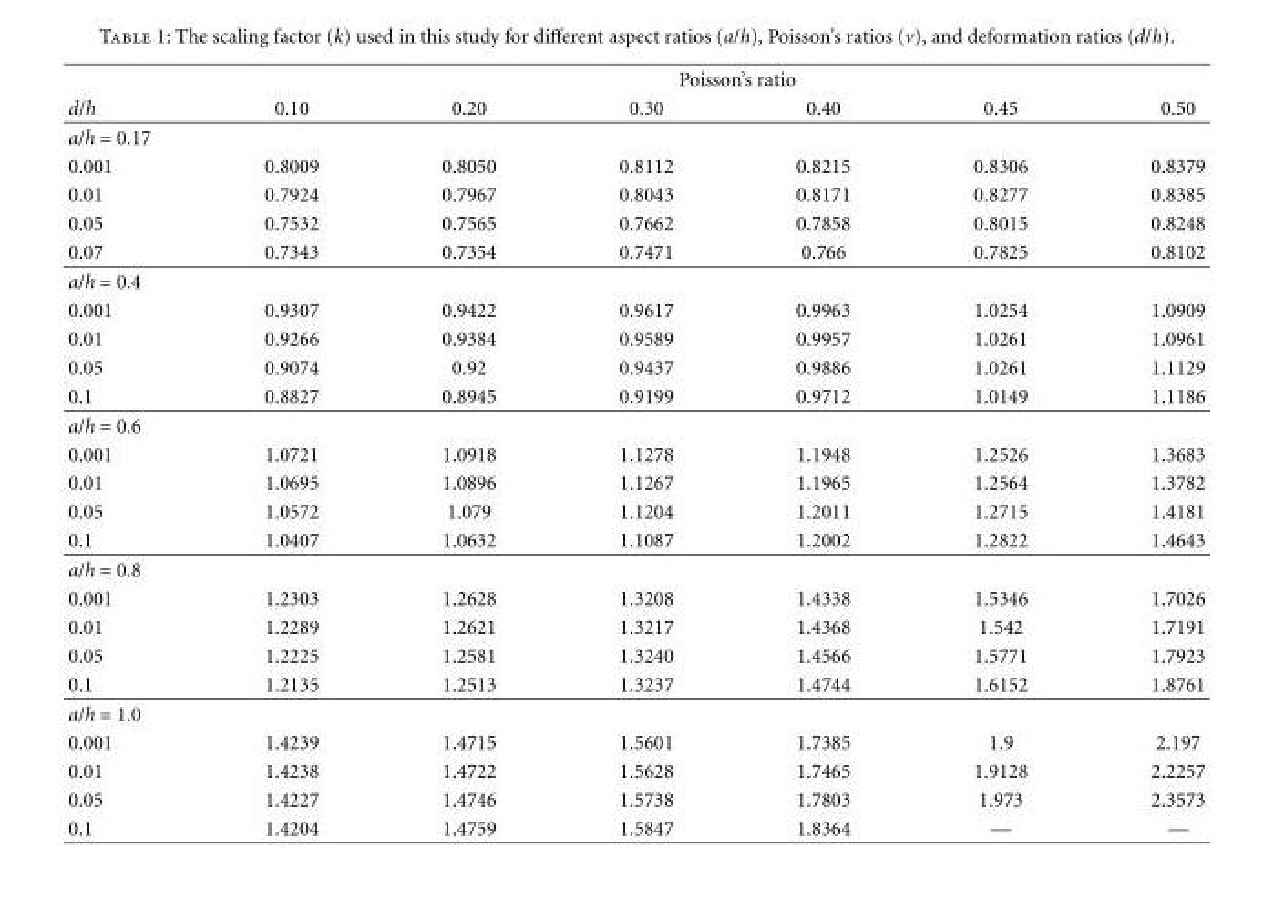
<table><thead><tr><td rowspan="2">d/h</td><td colspan="6">Poisson’s ratio</td></tr><tr><td>0.10</td><td>0.20</td><td>0.30</td><td>0.40</td><td>0.45</td><td>0.50</td></tr></thead><tbody><tr><td colspan="7">a/h = 0.17</td></tr><tr><td>0.001</td><td>0.8009</td><td>0.8050</td><td>0.8112</td><td>0.8215</td><td>0.8306</td><td>0.8379</td></tr><tr><td>0.01</td><td>0.7924</td><td>0.7967</td><td>0.8043</td><td>0.8171</td><td>0.8277</td><td>0.8385</td></tr><tr><td>0.05</td><td>0.7532</td><td>0.7565</td><td>0.7662</td><td>0.7858</td><td>0.8015</td><td>0.8248</td></tr><tr><td>0.07</td><td>0.7343</td><td>0.7354</td><td>0.7471</td><td>0.766</td><td>0.7825</td><td>0.8102</td></tr><tr><td colspan="7">a/h = 0.4</td></tr><tr><td>0.001</td><td>0.9307</td><td>0.9422</td><td>0.9617</td><td>0.9963</td><td>1.0254</td><td>1.0909</td></tr><tr><td>0.01</td><td>0.9266</td><td>0.9384</td><td>0.9589</td><td>0.9957</td><td>1.0261</td><td>1.0961</td></tr><tr><td>0.05</td><td>0.9074</td><td>0.92</td><td>0.9437</td><td>0.9886</td><td>1.0261</td><td>1.1129</td></tr><tr><td>0.1</td><td>0.8827</td><td>0.8945</td><td>0.9199</td><td>0.9712</td><td>1.0149</td><td>1.1186</td></tr><tr><td colspan="7">a/h = 0.6</td></tr><tr><td>0.001</td><td>1.0721</td><td>1.0918</td><td>1.1278</td><td>1.1948</td><td>1.2526</td><td>1.3683</td></tr><tr><td>0.01</td><td>1.0695</td><td>1.0896</td><td>1.1267</td><td>1.1965</td><td>1.2564</td><td>1.3782</td></tr><tr><td>0.05</td><td>1.0572</td><td>1.079</td><td>1.1204</td><td>1.2011</td><td>1.2715</td><td>1.4181</td></tr><tr><td>0.1</td><td>1.0407</td><td>1.0632</td><td>1.1087</td><td>1.2002</td><td>1.2822</td><td>1.4643</td></tr><tr><td colspan="7">a/h = 0.8</td></tr><tr><td>0.001</td><td>1.2303</td><td>1.2628</td><td>1.3208</td><td>1.4338</td><td>1.5346</td><td>1.7026</td></tr><tr><td>0.01</td><td>1.2289</td><td>1.2621</td><td>1.3217</td><td>1.4368</td><td>1.542</td><td>1.7191</td></tr><tr><td>0.05</td><td>1.2225</td><td>1.2581</td><td>1.3240</td><td>1.4566</td><td>1.5771</td><td>1.7923</td></tr><tr><td>0.1</td><td>1.2135</td><td>1.2513</td><td>1.3237</td><td>1.4744</td><td>1.6152</td><td>1.8761</td></tr><tr><td colspan="7">a/h = 1.0</td></tr><tr><td>0.001</td><td>1.4239</td><td>1.4715</td><td>1.5601</td><td>1.7385</td><td>1.9</td><td>2.197</td></tr><tr><td>0.01</td><td>1.4238</td><td>1.4722</td><td>1.5628</td><td>1.7465</td><td>1.9128</td><td>2.2257</td></tr><tr><td>0.05</td><td>1.4227</td><td>1.4746</td><td>1.5738</td><td>1.7803</td><td>1.973</td><td>2.3573</td></tr><tr><td>0.1</td><td>1.4204</td><td>1.4759</td><td>1.5847</td><td>1.8364</td><td>—</td><td>—</td></tr></tbody></table>